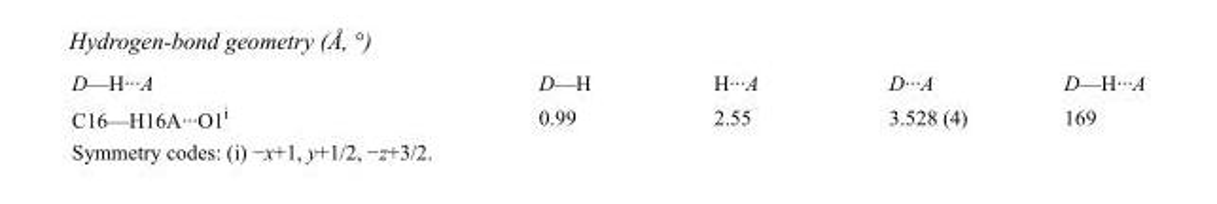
<table><tbody><tr><td>D—H···A</td><td>D—H</td><td>H···A</td><td>D···A</td><td>D—H···A</td></tr><tr><td>C16—H16A···O1<sup>i</sup></td><td>0.99</td><td>2.55</td><td>3.528 (4)</td><td>169</td></tr></tbody></table>